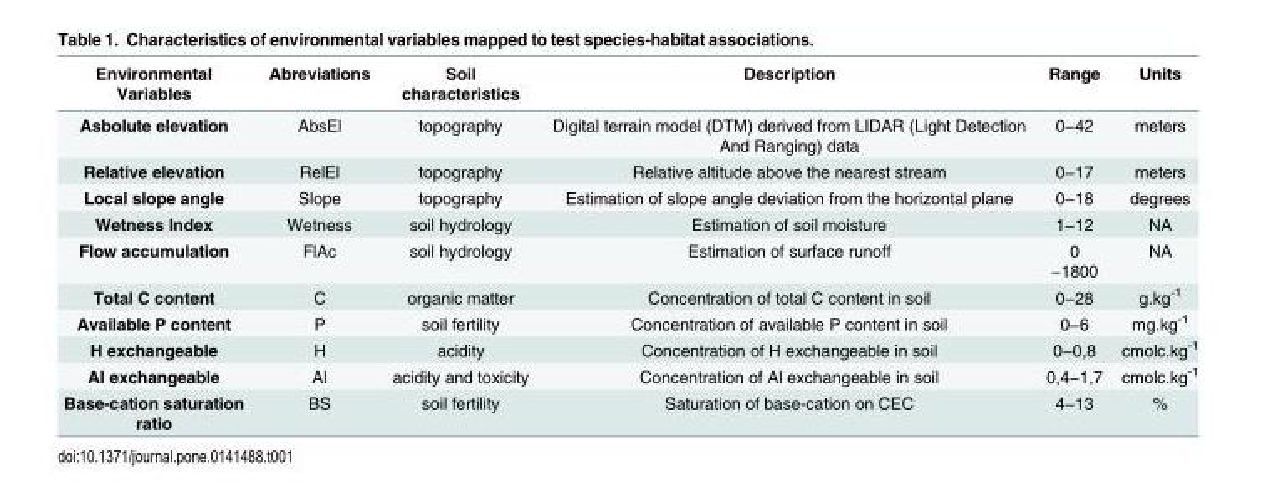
<table><thead><tr><td>Environmental Variables</td><td>Abreviations</td><td>Soil characteristics</td><td>Description</td><td>Range</td><td>Units</td></tr></thead><tbody><tr><td>Asbolute elevation</td><td>AbsEl</td><td>topography</td><td>Digital terrain model (DTM) derived from LIDAR (Light Detection And Ranging) data</td><td>0−42</td><td>meters</td></tr><tr><td>Relative elevation</td><td>RelEl</td><td>topography</td><td>Relative altitude above the nearest stream</td><td>0−17</td><td>meters</td></tr><tr><td>Local slope angle</td><td>Slope</td><td>topography</td><td>Estimation of slope angle deviation from the horizontal plane</td><td>0−18</td><td>degrees</td></tr><tr><td>Wetness Index</td><td>Wetness</td><td>soil hydrology</td><td>Estimation of soil moisture</td><td>1−12</td><td>NA</td></tr><tr><td>Flow accumulation</td><td>FlAc</td><td>soil hydrology</td><td>Estimation of surface runoff</td><td>0 −1800</td><td>NA</td></tr><tr><td>Total C content</td><td>C</td><td>organic matter</td><td>Concentration of total C content in soil</td><td>0−28</td><td>g.kg<sup>-1</sup></td></tr><tr><td>Available P content</td><td>P</td><td>soil fertility</td><td>Concentration of available P content in soil</td><td>0−6</td><td>mg.kg<sup>-1</sup></td></tr><tr><td>H exchangeable</td><td>H</td><td>acidity</td><td>Concentration of H exchangeable in soil</td><td>0−0,8</td><td>cmolc.kg<sup>-1</sup></td></tr><tr><td>Al exchangeable</td><td>Al</td><td>acidity and toxicity</td><td>Concentration of Al exchangeable in soil</td><td>0,4−1,7</td><td>cmolc.kg<sup>-1</sup></td></tr><tr><td>Base-cation saturation ratio</td><td>BS</td><td>soil fertility</td><td>Saturation of base-cation on CEC</td><td>4−13</td><td>%</td></tr></tbody></table>